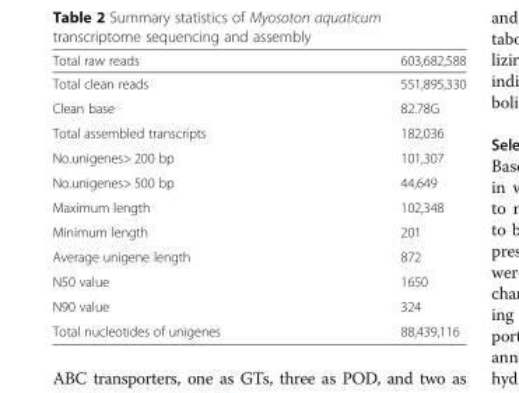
<table><thead><tr><td>Total raw reads</td><td>603,682,588</td></tr></thead><tbody><tr><td>Total clean reads</td><td>551,895,330</td></tr><tr><td>Clean base</td><td>82.78G</td></tr><tr><td>Total assembled transcripts</td><td>182,036</td></tr><tr><td>No.unigenes&gt; 200 bp</td><td>101,307</td></tr><tr><td>No.unigenes&gt; 500 bp</td><td>44,649</td></tr><tr><td>Maximum length</td><td>102,348</td></tr><tr><td>Minimum length</td><td>201</td></tr><tr><td>Average unigene length</td><td>872</td></tr><tr><td>N50 value</td><td>1650</td></tr><tr><td>N90 value</td><td>324</td></tr><tr><td>Total nucleotides of unigenes</td><td>88,439,116</td></tr></tbody></table>